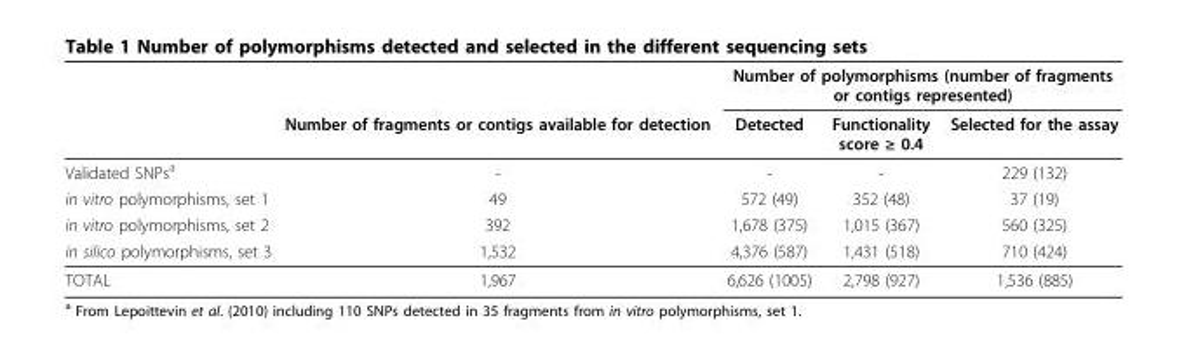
<table><thead><tr><td rowspan="2"></td><td rowspan="2">Number of fragments or contigs available for detection</td><td colspan="3">Number of polymorphisms (number of fragments or contigs represented)</td></tr><tr><td>Detected</td><td>Functionality score ≥ 0.4</td><td>Selected for the assay</td></tr></thead><tbody><tr><td>Validated SNPs<sup>a</sup></td><td>-</td><td>-</td><td>-</td><td>229 (132)</td></tr><tr><td>in vitro polymorphisms, set 1</td><td>49</td><td>572 (49)</td><td>352 (48)</td><td>37 (19)</td></tr><tr><td>in vitro polymorphisms, set 2</td><td>392</td><td>1,678 (375)</td><td>1,015 (367)</td><td>560 (325)</td></tr><tr><td>in silico polymorphisms, set 3</td><td>1,532</td><td>4,376 (587)</td><td>1,431 (518)</td><td>710 (424)</td></tr><tr><td>TOTAL</td><td>1,967</td><td>6,626 (1005)</td><td>2,798 (927)</td><td>1,536 (885)</td></tr></tbody></table>